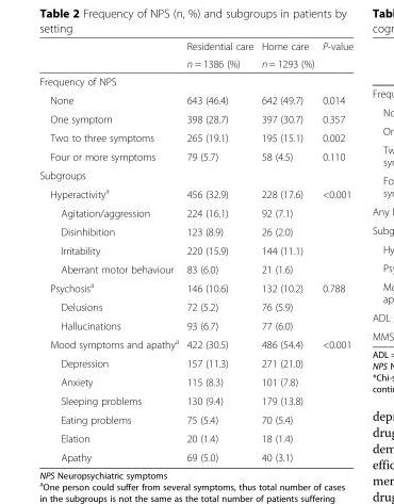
<table><thead><tr><td rowspan="2"></td><td rowspan="2">Residential care n = 1386 (%)</td><td rowspan="2">Home care n = 1293 (%)</td><td rowspan="2">P-value</td></tr><tr></tr></thead><tbody><tr><td colspan="4">Frequency of NPS</td></tr><tr><td>None</td><td>643 (46.4)</td><td>642 (49.7)</td><td>0.014</td></tr><tr><td>One symptom</td><td>398 (28.7)</td><td>397 (30.7)</td><td>0.357</td></tr><tr><td>Two to three symptoms</td><td>265 (19.1)</td><td>195 (15.1)</td><td>0.002</td></tr><tr><td>Four or more symptoms</td><td>79 (5.7)</td><td>58 (4.5)</td><td>0.110</td></tr><tr><td colspan="4">Subgroups</td></tr><tr><td>Hyperactivity<sup>a</sup></td><td>456 (32.9)</td><td>228 (17.6)</td><td>&lt;0.001</td></tr><tr><td>Agitation/aggression</td><td>224 (16.1)</td><td>92 (7.1)</td><td></td></tr><tr><td>Disinhibition</td><td>123 (8.9)</td><td>26 (2.0)</td><td></td></tr><tr><td>Irritability</td><td>220 (15.9)</td><td>144 (11.1)</td><td></td></tr><tr><td>Aberrant motor behaviour</td><td>83 (6.0)</td><td>21 (1.6)</td><td></td></tr><tr><td>Psychosis<sup>a</sup></td><td>146 (10.6)</td><td>132 (10.2)</td><td>0.788</td></tr><tr><td>Delusions</td><td>72 (5.2)</td><td>76 (5.9)</td><td></td></tr><tr><td>Hallucinations</td><td>93 (6.7)</td><td>77 (6.0)</td><td></td></tr><tr><td>Mood symptoms and apathy<sup>a</sup></td><td>422 (30.5)</td><td>486 (54.4)</td><td>&lt;0.001</td></tr><tr><td>Depression</td><td>157 (11.3)</td><td>271 (21.0)</td><td></td></tr><tr><td>Anxiety</td><td>115 (8.3)</td><td>101 (7.8)</td><td></td></tr><tr><td>Sleeping problems</td><td>130 (9.4)</td><td>179 (13.8)</td><td></td></tr><tr><td>Eating problems</td><td>75 (5.4)</td><td>70 (5.4)</td><td></td></tr><tr><td>Elation</td><td>20 (1.4)</td><td>18 (1.4)</td><td></td></tr><tr><td>Apathy</td><td>69 (5.0)</td><td>40 (3.1)</td><td></td></tr></tbody></table>